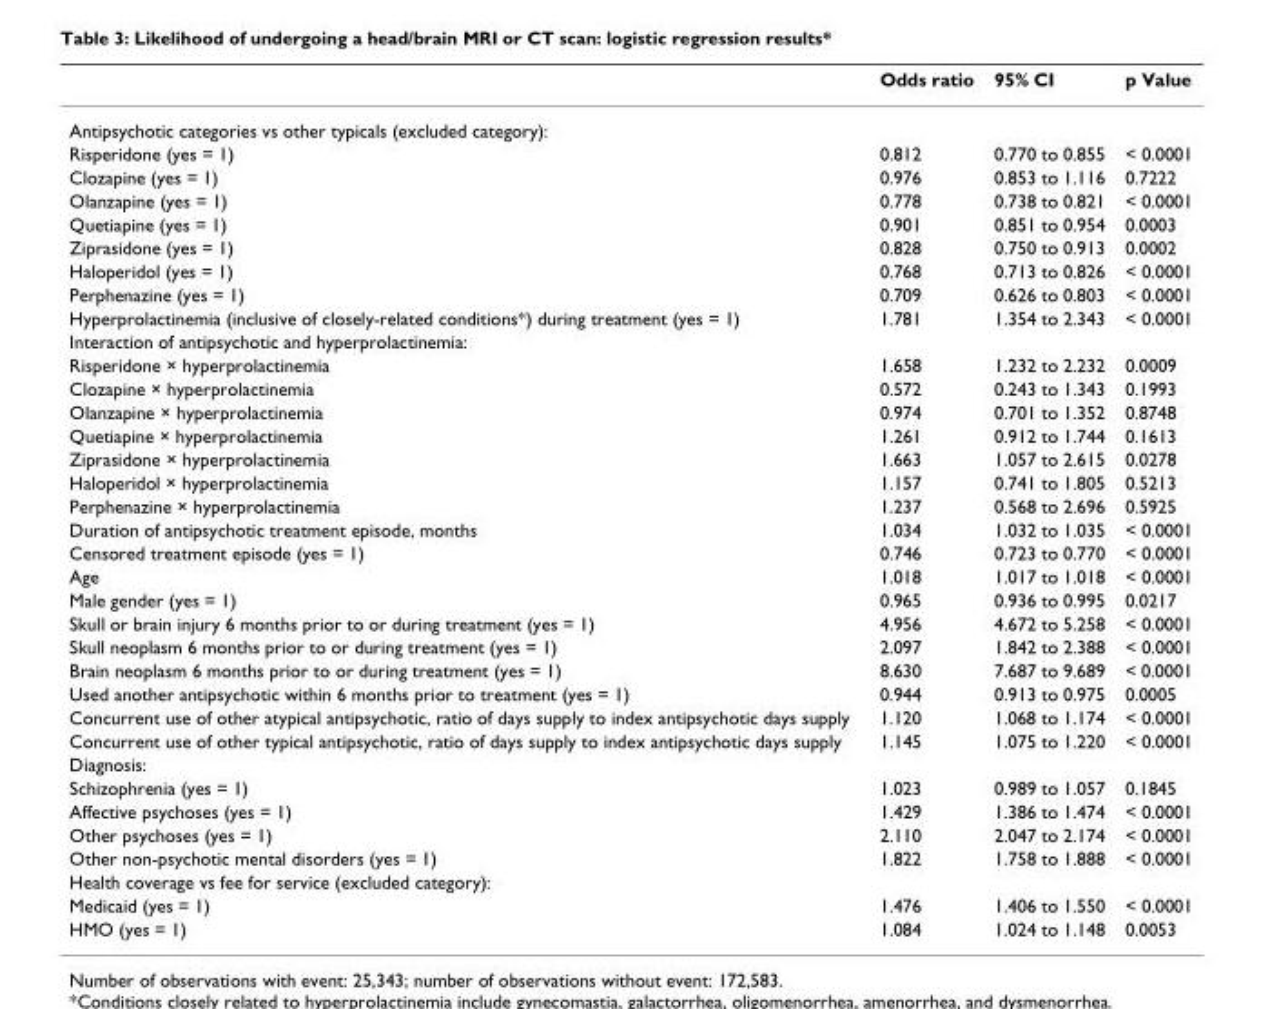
<table><thead><tr><td></td><td>Odds ratio</td><td>95% CI</td><td>p Value</td></tr></thead><tbody><tr><td colspan="4">Antipsychotic categories vs other typicals (excluded category):</td></tr><tr><td>Risperidone (yes = 1)</td><td>0.812</td><td>0.770 to 0.855</td><td>&lt; 0.0001</td></tr><tr><td>Clozapine (yes = 1)</td><td>0.976</td><td>0.853 to 1.116</td><td>0.7222</td></tr><tr><td>Olanzapine (yes = 1)</td><td>0.778</td><td>0.738 to 0.821</td><td>&lt; 0.0001</td></tr><tr><td>Quetiapine (yes = 1)</td><td>0.901</td><td>0.851 to 0.954</td><td>0.0003</td></tr><tr><td>Ziprasidone (yes = 1)</td><td>0.828</td><td>0.750 to 0.913</td><td>0.0002</td></tr><tr><td>Haloperidol (yes = 1)</td><td>0.768</td><td>0.713 to 0.826</td><td>&lt; 0.0001</td></tr><tr><td>Perphenazine (yes = 1)</td><td>0.709</td><td>0.626 to 0.803</td><td>&lt; 0.0001</td></tr><tr><td>Hyperprolactinemia (inclusive of closely-related conditions*) during treatment (yes = 1)</td><td>1.781</td><td>1.354 to 2.343</td><td>&lt; 0.0001</td></tr><tr><td colspan="4">Interaction of antipsychotic and hyperprolactinemia:</td></tr><tr><td>Risperidone × hyperprolactinemia</td><td>1.658</td><td>1.232 to 2.232</td><td>0.0009</td></tr><tr><td>Clozapine × hyperprolactinemia</td><td>0.572</td><td>0.243 to 1.343</td><td>0.1993</td></tr><tr><td>Olanzapine × hyperprolactinemia</td><td>0.974</td><td>0.701 to 1.352</td><td>0.8748</td></tr><tr><td>Quetiapine × hyperprolactinemia</td><td>1.261</td><td>0.912 to 1.744</td><td>0.1613</td></tr><tr><td>Ziprasidone × hyperprolactinemia</td><td>1.663</td><td>1.057 to 2.615</td><td>0.0278</td></tr><tr><td>Haloperidol × hyperprolactinemia</td><td>1.157</td><td>0.741 to 1.805</td><td>0.5213</td></tr><tr><td>Perphenazine × hyperprolactinemia</td><td>1.237</td><td>0.568 to 2.696</td><td>0.5925</td></tr><tr><td>Duration of antipsychotic treatment episode, months</td><td>1.034</td><td>1.032 to 1.035</td><td>&lt; 0.0001</td></tr><tr><td>Censored treatment episode (yes = 1)</td><td>0.746</td><td>0.723 to 0.770</td><td>&lt; 0.0001</td></tr><tr><td>Age</td><td>1.018</td><td>1.017 to 1.018</td><td>&lt; 0.0001</td></tr><tr><td>Male gender (yes = 1)</td><td>0.965</td><td>0.936 to 0.995</td><td>0.0217</td></tr><tr><td>Skull or brain injury 6 months prior to or during treatment (yes = 1)</td><td>4.956</td><td>4.672 to 5.258</td><td>&lt; 0.0001</td></tr><tr><td>Skull neoplasm 6 months prior to or during treatment (yes = 1)</td><td>2.097</td><td>1.842 to 2.388</td><td>&lt; 0.0001</td></tr><tr><td>Brain neoplasm 6 months prior to or during treatment (yes = 1)</td><td>8.630</td><td>7.687 to 9.689</td><td>&lt; 0.0001</td></tr><tr><td>Used another antipsychotic within 6 months prior to treatment (yes = 1)</td><td>0.944</td><td>0.913 to 0.975</td><td>0.0005</td></tr><tr><td>Concurrent use of other atypical antipsychotic, ratio of days supply to index antipsychotic days supply</td><td>1.120</td><td>1.068 to 1.174</td><td>&lt; 0.0001</td></tr><tr><td>Concurrent use of other typical antipsychotic, ratio of days supply to index antipsychotic days supply</td><td>1.145</td><td>1.075 to 1.220</td><td>&lt; 0.0001</td></tr><tr><td colspan="4">Diagnosis:</td></tr><tr><td>Schizophrenia (yes = 1)</td><td>1.023</td><td>0.989 to 1.057</td><td>0.1845</td></tr><tr><td>Affective psychoses (yes = 1)</td><td>1.429</td><td>1.386 to 1.474</td><td>&lt; 0.0001</td></tr><tr><td>Other psychoses (yes = 1)</td><td>2.110</td><td>2.047 to 2.174</td><td>&lt; 0.0001</td></tr><tr><td>Other non-psychotic mental disorders (yes = 1)</td><td>1.822</td><td>1.758 to 1.888</td><td>&lt; 0.0001</td></tr><tr><td colspan="4">Health coverage vs fee for service (excluded category):</td></tr><tr><td>Medicaid (yes = 1)</td><td>1.476</td><td>1.406 to 1.550</td><td>&lt; 0.0001</td></tr><tr><td>HMO (yes = 1)</td><td>1.084</td><td>1.024 to 1.148</td><td>0.0053</td></tr></tbody></table>